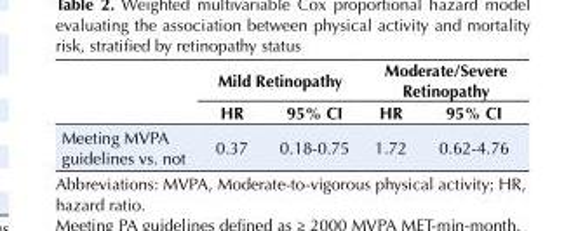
<table><thead><tr><td rowspan="2"></td><td colspan="2">Mild Retinopathy</td><td colspan="2">Moderate/Severe Retinopathy</td></tr><tr><td>HR</td><td>95% CI</td><td>HR</td><td>95% CI</td></tr></thead><tbody><tr><td>Meeting MVPA guidelines vs. not</td><td>0.37</td><td>0.18-0.75</td><td>1.72</td><td>0.62-4.76</td></tr></tbody></table>